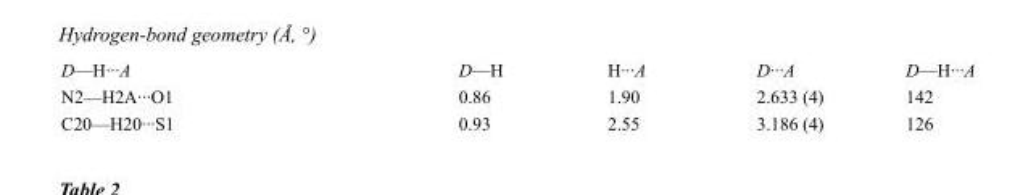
<table><tbody><tr><td>D—H···A</td><td>D—H</td><td>H···A</td><td>D···A</td><td>D—H···A</td></tr><tr><td>N2—H2A···O1</td><td>0.86</td><td>1.90</td><td>2.633 (4)</td><td>142</td></tr><tr><td>C20—H20···S1</td><td>0.93</td><td>2.55</td><td>3.186 (4)</td><td>126</td></tr></tbody></table>